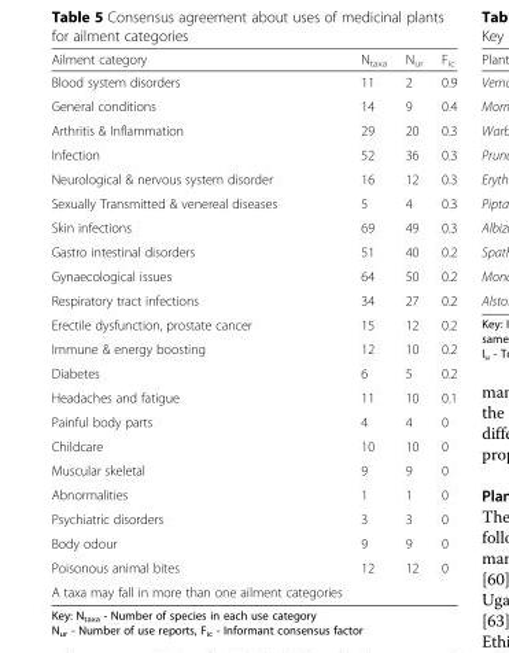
<table><thead><tr><td>Ailment category</td><td>N<sub>taxa</sub></td><td>N<sub>ur</sub></td><td>F<sub>ic</sub></td></tr></thead><tbody><tr><td>Blood system disorders</td><td>11</td><td>2</td><td>0.9</td></tr><tr><td>General conditions</td><td>14</td><td>9</td><td>0.4</td></tr><tr><td>Arthritis &amp; Inflammation</td><td>29</td><td>20</td><td>0.3</td></tr><tr><td>Infection</td><td>52</td><td>36</td><td>0.3</td></tr><tr><td>Neurological &amp; nervous system disorder</td><td>16</td><td>12</td><td>0.3</td></tr><tr><td>Sexually Transmitted &amp; venereal diseases</td><td>5</td><td>4</td><td>0.3</td></tr><tr><td>Skin infections</td><td>69</td><td>49</td><td>0.3</td></tr><tr><td>Gastro intestinal disorders</td><td>51</td><td>40</td><td>0.2</td></tr><tr><td>Gynaecological issues</td><td>64</td><td>50</td><td>0.2</td></tr><tr><td>Respiratory tract infections</td><td>34</td><td>27</td><td>0.2</td></tr><tr><td>Erectile dysfunction, prostate cancer</td><td>15</td><td>12</td><td>0.2</td></tr><tr><td>Immune &amp; energy boosting</td><td>12</td><td>10</td><td>0.2</td></tr><tr><td>Diabetes</td><td>6</td><td>5</td><td>0.2</td></tr><tr><td>Headaches and fatigue</td><td>11</td><td>10</td><td>0.1</td></tr><tr><td>Painful body parts</td><td>4</td><td>4</td><td>0</td></tr><tr><td>Childcare</td><td>10</td><td>10</td><td>0</td></tr><tr><td>Muscular skeletal</td><td>9</td><td>9</td><td>0</td></tr><tr><td>Abnormalities</td><td>1</td><td>1</td><td>0</td></tr><tr><td>Psychiatric disorders</td><td>3</td><td>3</td><td>0</td></tr><tr><td>Body odour</td><td>9</td><td>9</td><td>0</td></tr><tr><td>Poisonous animal bites</td><td>12</td><td>12</td><td>0</td></tr><tr><td>A taxa may fall in more than one ailment categories</td><td></td><td></td><td></td></tr></tbody></table>